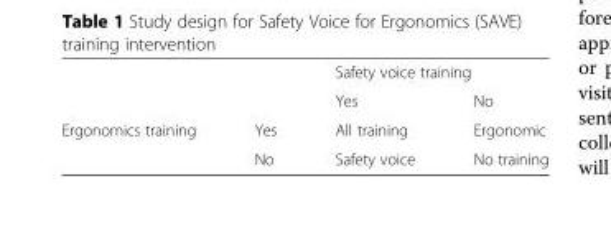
<table><thead><tr><td rowspan="2"></td><td rowspan="2"></td><td colspan="2">Safety voice training</td></tr><tr><td>Yes</td><td>No</td></tr></thead><tbody><tr><td rowspan="2">Ergonomics training</td><td>Yes</td><td>All training</td><td>Ergonomic</td></tr><tr><td>No</td><td>Safety voice</td><td>No training</td></tr></tbody></table>